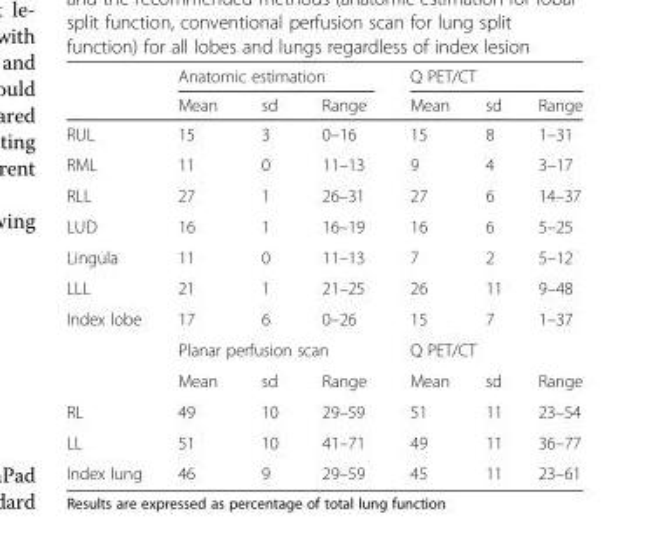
<table><thead><tr><td rowspan="2"></td><td colspan="3">Anatomic estimation</td><td colspan="3">Q PET/CT</td></tr><tr><td>Mean</td><td>sd</td><td>Range</td><td>Mean</td><td>sd</td><td>Range</td></tr></thead><tbody><tr><td>RUL</td><td>15</td><td>3</td><td>0–16</td><td>15</td><td>8</td><td>1–31</td></tr><tr><td>RML</td><td>11</td><td>0</td><td>11–13</td><td>9</td><td>4</td><td>3–17</td></tr><tr><td>RLL</td><td>27</td><td>1</td><td>26–31</td><td>27</td><td>6</td><td>14–37</td></tr><tr><td>LUD</td><td>16</td><td>1</td><td>16–19</td><td>16</td><td>6</td><td>5–25</td></tr><tr><td>Lingula</td><td>11</td><td>0</td><td>11–13</td><td>7</td><td>2</td><td>5–12</td></tr><tr><td>LLL</td><td>21</td><td>1</td><td>21–25</td><td>26</td><td>11</td><td>9–48</td></tr><tr><td rowspan="3">Index lobe</td><td>17</td><td>6</td><td>0–26</td><td>15</td><td>7</td><td>1–37</td></tr><tr><td colspan="3">Planar perfusion scan</td><td colspan="3">Q PET/CT</td></tr><tr><td>Mean</td><td>sd</td><td>Range</td><td>Mean</td><td>sd</td><td>Range</td></tr><tr><td>RL</td><td>49</td><td>10</td><td>29–59</td><td>51</td><td>11</td><td>23–54</td></tr><tr><td>LL</td><td>51</td><td>10</td><td>41–71</td><td>49</td><td>11</td><td>36–77</td></tr><tr><td>Index lung</td><td>46</td><td>9</td><td>29–59</td><td>45</td><td>11</td><td>23–61</td></tr></tbody></table>